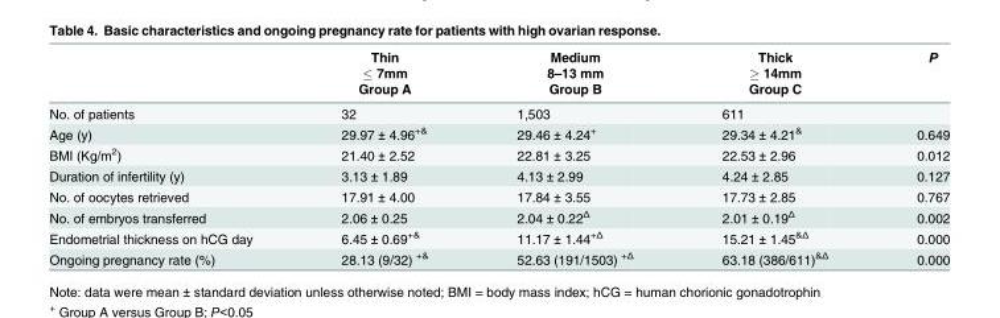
<table><thead><tr><td rowspan="3"></td><td rowspan="3">Thin ≤ 7mm Group A</td><td rowspan="3">Medium 8–13 mm Group B</td><td rowspan="3">Thick ≥ 14mm Group C</td><td rowspan="3">P</td></tr><tr></tr><tr></tr></thead><tbody><tr><td>No. of patients</td><td>32</td><td>1,503</td><td>611</td><td></td></tr><tr><td>Age (y)</td><td>29.97 ± 4.96<sup>+&amp;</sup></td><td>29.46 ± 4.24<sup>+</sup></td><td>29.34 ± 4.21<sup>&amp;</sup></td><td>0.649</td></tr><tr><td>BMI (Kg/m<sup>2</sup>)</td><td>21.40 ± 2.52</td><td>22.81 ± 3.25</td><td>22.53 ± 2.96</td><td>0.012</td></tr><tr><td>Duration of infertility (y)</td><td>3.13 ± 1.89</td><td>4.13 ± 2.99</td><td>4.24 ± 2.85</td><td>0.127</td></tr><tr><td>No. of oocytes retrieved</td><td>17.91 ± 4.00</td><td>17.84 ± 3.55</td><td>17.73 ± 2.85</td><td>0.767</td></tr><tr><td>No. of embryos transferred</td><td>2.06 ± 0.25</td><td>2.04 ± 0.22<sup>Δ</sup></td><td>2.01 ± 0.19<sup>Δ</sup></td><td>0.002</td></tr><tr><td>Endometrial thickness on hCG day</td><td>6.45 ± 0.69<sup>+&amp;</sup></td><td>11.17 ± 1.44<sup>+Δ</sup></td><td>15.21 ± 1.45<sup>&amp;Δ</sup></td><td>0.000</td></tr><tr><td>Ongoing pregnancy rate (%)</td><td>28.13 (9/32) <sup>+&amp;</sup></td><td>52.63 (191/1503) <sup>+Δ</sup></td><td>63.18 (386/611)<sup>&amp;Δ</sup></td><td>0.000</td></tr></tbody></table>